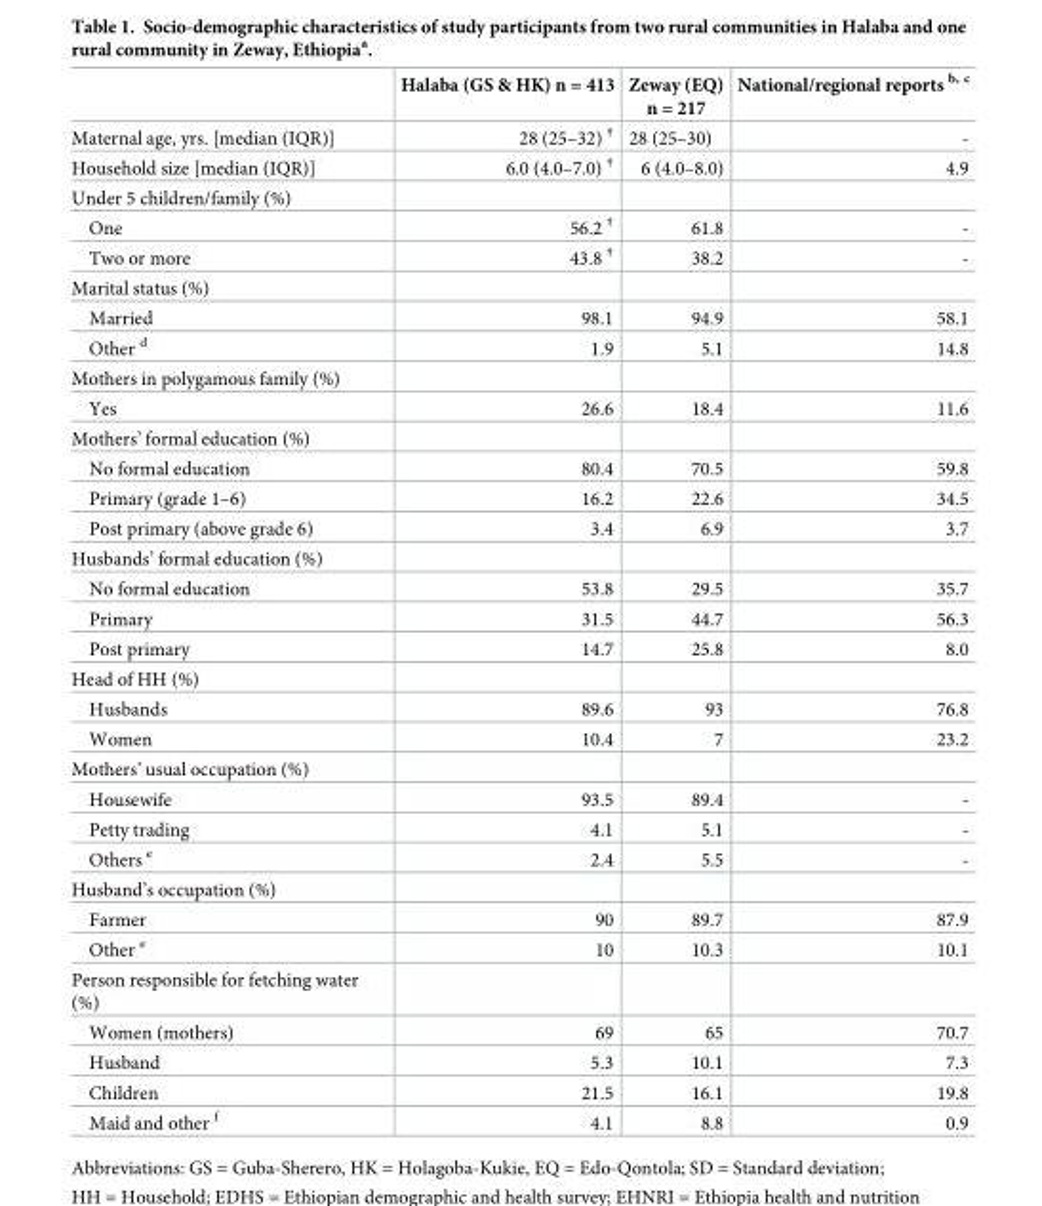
<table><thead><tr><td></td><td>Halaba (GS &amp; HK) n = 413</td><td>Zeway (EQ) n = 217</td><td>National/regional reports <sup>b, c</sup></td></tr></thead><tbody><tr><td>Maternal age, yrs. [median (IQR)]</td><td>28 (25–32) <sup>†</sup></td><td>28 (25–30)</td><td>-</td></tr><tr><td>Household size [median (IQR)]</td><td>6.0 (4.0–7.0) <sup>†</sup></td><td>6 (4.0–8.0)</td><td>4.9</td></tr><tr><td colspan="4">Under 5 children/family (%)</td></tr><tr><td>One</td><td>56.2 <sup>†</sup></td><td>61.8</td><td>-</td></tr><tr><td>Two or more</td><td>43.8 <sup>†</sup></td><td>38.2</td><td>-</td></tr><tr><td colspan="4">Marital status (%)</td></tr><tr><td>Married</td><td>98.1</td><td>94.9</td><td>58.1</td></tr><tr><td>Other <sup>d</sup></td><td>1.9</td><td>5.1</td><td>14.8</td></tr><tr><td colspan="4">Mothers in polygamous family (%)</td></tr><tr><td>Yes</td><td>26.6</td><td>18.4</td><td>11.6</td></tr><tr><td colspan="4">Mothers’ formal education (%)</td></tr><tr><td>No formal education</td><td>80.4</td><td>70.5</td><td>59.8</td></tr><tr><td>Primary (grade 1–6)</td><td>16.2</td><td>22.6</td><td>34.5</td></tr><tr><td>Post primary (above grade 6)</td><td>3.4</td><td>6.9</td><td>3.7</td></tr><tr><td colspan="4">Husbands’ formal education (%)</td></tr><tr><td>No formal education</td><td>53.8</td><td>29.5</td><td>35.7</td></tr><tr><td>Primary</td><td>31.5</td><td>44.7</td><td>56.3</td></tr><tr><td>Post primary</td><td>14.7</td><td>25.8</td><td>8.0</td></tr><tr><td colspan="4">Head of HH (%)</td></tr><tr><td>Husbands</td><td>89.6</td><td>93</td><td>76.8</td></tr><tr><td>Women</td><td>10.4</td><td>7</td><td>23.2</td></tr><tr><td colspan="4">Mothers’ usual occupation (%)</td></tr><tr><td>Housewife</td><td>93.5</td><td>89.4</td><td>-</td></tr><tr><td>Petty trading</td><td>4.1</td><td>5.1</td><td>-</td></tr><tr><td>Others <sup>e</sup></td><td>2.4</td><td>5.5</td><td>-</td></tr><tr><td colspan="4">Husband’s occupation (%)</td></tr><tr><td>Farmer</td><td>90</td><td>89.7</td><td>87.9</td></tr><tr><td>Other <sup>e</sup></td><td>10</td><td>10.3</td><td>10.1</td></tr><tr><td colspan="4">Person responsible for fetching water (%)</td></tr><tr><td>Women (mothers)</td><td>69</td><td>65</td><td>70.7</td></tr><tr><td>Husband</td><td>5.3</td><td>10.1</td><td>7.3</td></tr><tr><td>Children</td><td>21.5</td><td>16.1</td><td>19.8</td></tr><tr><td>Maid and other <sup>f</sup></td><td>4.1</td><td>8.8</td><td>0.9</td></tr></tbody></table>